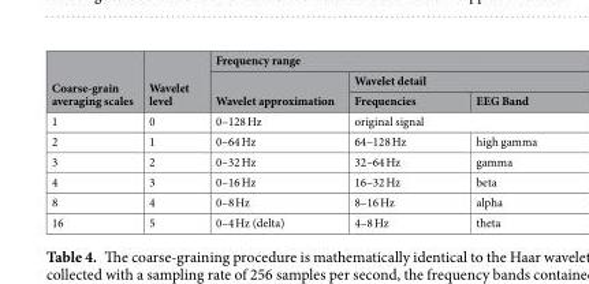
<table><thead><tr><td rowspan="3">Coarse-grain averaging scales</td><td rowspan="3">Wavelet level</td><td colspan="3">Frequency range</td></tr><tr><td rowspan="2">Wavelet approximation</td><td colspan="2">Wavelet detail</td></tr><tr><td>Frequencies</td><td>EEG Band</td></tr></thead><tbody><tr><td>1</td><td>0</td><td>0–128 Hz</td><td colspan="2">original signal</td></tr><tr><td>2</td><td>1</td><td>0–64 Hz</td><td>64–128 Hz</td><td>high gamma</td></tr><tr><td>3</td><td>2</td><td>0–32 Hz</td><td>32–64 Hz</td><td>gamma</td></tr><tr><td>4</td><td>3</td><td>0–16 Hz</td><td>16–32 Hz</td><td>beta</td></tr><tr><td>8</td><td>4</td><td>0–8 Hz</td><td>8–16 Hz</td><td>alpha</td></tr><tr><td>16</td><td>5</td><td>0–4 Hz (delta)</td><td>4–8 Hz</td><td>theta</td></tr></tbody></table>